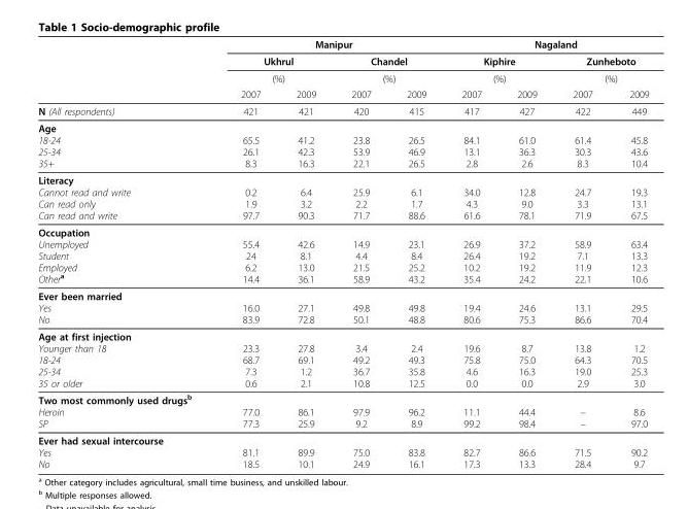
<table><thead><tr><td rowspan="4"></td><td colspan="4">Manipur</td><td colspan="4">Nagaland</td></tr><tr><td rowspan="2" colspan="2">Ukhrul (%)</td><td rowspan="2" colspan="2">Chandel (%)</td><td rowspan="2" colspan="2">Kiphire (%)</td><td rowspan="2" colspan="2">Zunheboto (%)</td></tr><tr></tr><tr><td>2007</td><td>2009</td><td>2007</td><td>2009</td><td>2007</td><td>2009</td><td>2007</td><td>2009</td></tr></thead><tbody><tr><td>N (All respondents)</td><td>421</td><td>421</td><td>420</td><td>415</td><td>417</td><td>427</td><td>422</td><td>449</td></tr><tr><td>Age 18-24 25-34 35+</td><td>65.5 26.1 8.3</td><td>41.2 42.3 16.3</td><td>23.8 53.9 22.1</td><td>26.5 46.9 26.5</td><td>84.1 13.1 2.8</td><td>61.0 36.3 2.6</td><td>61.4 30.3 8.3</td><td>45.8 43.6 10.4</td></tr><tr><td>Literacy Cannot read and write Can read only Can read and write</td><td>0.2 1.9 97.7</td><td>6.4 3.2 90.3</td><td>25.9 2.2 71.7</td><td>6.1 1.7 88.6</td><td>34.0 4.3 61.6</td><td>12.8 9.0 78.1</td><td>24.7 3.3 71.9</td><td>19.3 13.1 67.5</td></tr><tr><td>Occupation Unemployed Student Employed Other<sup>a</sup></td><td>55.4 24 6.2 14.4</td><td>42.6 8.1 13.0 36.1</td><td>14.9 4.4 21.5 58.9</td><td>23.1 8.4 25.2 43.2</td><td>26.9 26.4 10.2 35.4</td><td>37.2 19.2 19.2 24.2</td><td>58.9 7.1 11.9 22.1</td><td>63.4 13.3 12.3 10.6</td></tr><tr><td>Ever been married Yes No</td><td>16.0 83.9</td><td>27.1 72.8</td><td>49.8 50.1</td><td>49.8 48.8</td><td>19.4 80.6</td><td>24.6 75.3</td><td>13.1 86.6</td><td>29.5 70.4</td></tr><tr><td>Age at first injection Younger than 18 18-24 25-34 35 or older</td><td>23.3 68.7 7.3 0.6</td><td>27.8 69.1 1.2 2.1</td><td>3.4 49.2 36.7 10.8</td><td>2.4 49.3 35.8 12.5</td><td>19.6 75.8 4.6 0.0</td><td>8.7 75.0 16.3 0.0</td><td>13.8 64.3 19.0 2.9</td><td>1.2 70.5 25.3 3.0</td></tr><tr><td>Two most commonly used drugs<sup>b</sup> Heroin SP</td><td>77.0 77.3</td><td>86.1 25.9</td><td>97.9 9.2</td><td>96.2 8.9</td><td>11.1 99.2</td><td>44.4 98.4</td><td>– –</td><td>8.6 97.0</td></tr><tr><td>Ever had sexual intercourse Yes No</td><td>81.1 18.5</td><td>89.9 10.1</td><td>75.0 24.9</td><td>83.8 16.1</td><td>82.7 17.3</td><td>86.6 13.3</td><td>71.5 28.4</td><td>90.2 9.7</td></tr></tbody></table>